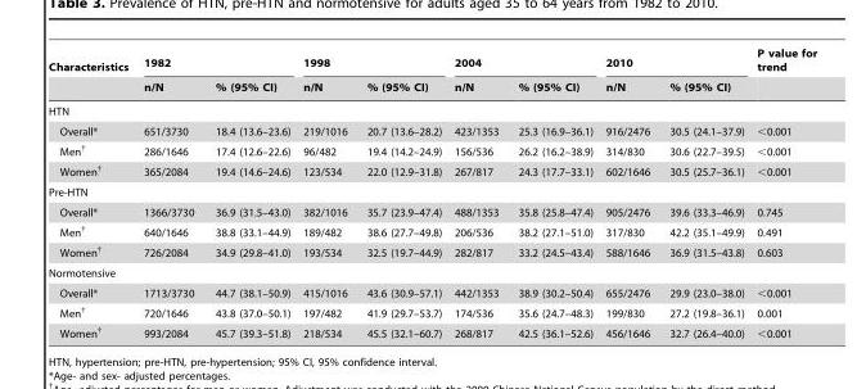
<table><thead><tr><td rowspan="2">Characteristics</td><td colspan="2">1982</td><td colspan="2">1998</td><td colspan="2">2004</td><td colspan="2">2010</td><td rowspan="2">P value for trend</td></tr><tr><td>n/N</td><td>% (95% CI)</td><td>n/N</td><td>% (95% CI)</td><td>n/N</td><td>% (95% CI)</td><td>n/N</td><td>% (95% CI)</td></tr></thead><tbody><tr><td colspan="10">HTN</td></tr><tr><td>Overall*</td><td>651/3730</td><td>18.4 (13.6–23.6)</td><td>219/1016</td><td>20.7 (13.6–28.2)</td><td>423/1353</td><td>25.3 (16.9–36.1)</td><td>916/2476</td><td>30.5 (24.1–37.9)</td><td>&lt;0.001</td></tr><tr><td>Men†</td><td>286/1646</td><td>17.4 (12.6–22.6)</td><td>96/482</td><td>19.4 (14.2–24.9)</td><td>156/536</td><td>26.2 (16.2–38.9)</td><td>314/830</td><td>30.6 (22.7–39.5)</td><td>&lt;0.001</td></tr><tr><td>Women†</td><td>365/2084</td><td>19.4 (14.6–24.6)</td><td>123/534</td><td>22.0 (12.9–31.8)</td><td>267/817</td><td>24.3 (17.7–33.1)</td><td>602/1646</td><td>30.5 (25.7–36.1)</td><td>&lt;0.001</td></tr><tr><td colspan="10">Pre-HTN</td></tr><tr><td>Overall*</td><td>1366/3730</td><td>36.9 (31.5–43.0)</td><td>382/1016</td><td>35.7 (23.9–47.4)</td><td>488/1353</td><td>35.8 (25.8–47.4)</td><td>905/2476</td><td>39.6 (33.3–46.9)</td><td>0.745</td></tr><tr><td>Men†</td><td>640/1646</td><td>38.8 (33.1–44.9)</td><td>189/482</td><td>38.6 (27.7–49.8)</td><td>206/536</td><td>38.2 (27.1–51.0)</td><td>317/830</td><td>42.2 (35.1–49.9)</td><td>0.491</td></tr><tr><td>Women†</td><td>726/2084</td><td>34.9 (29.8–41.0)</td><td>193/534</td><td>32.5 (19.7–44.9)</td><td>282/817</td><td>33.2 (24.5–43.4)</td><td>588/1646</td><td>36.9 (31.5–43.8)</td><td>0.603</td></tr><tr><td colspan="10">Normotensive</td></tr><tr><td>Overall*</td><td>1713/3730</td><td>44.7 (38.1–50.9)</td><td>415/1016</td><td>43.6 (30.9–57.1)</td><td>442/1353</td><td>38.9 (30.2–50.4)</td><td>655/2476</td><td>29.9 (23.0–38.0)</td><td>&lt;0.001</td></tr><tr><td>Men†</td><td>720/1646</td><td>43.8 (37.0–50.1)</td><td>197/482</td><td>41.9 (29.7–53.7)</td><td>174/536</td><td>35.6 (24.7–48.3)</td><td>199/830</td><td>27.2 (19.8–36.1)</td><td>0.001</td></tr><tr><td>Women†</td><td>993/2084</td><td>45.7 (39.3–51.8)</td><td>218/534</td><td>45.5 (32.1–60.7)</td><td>268/817</td><td>42.5 (36.1–52.6)</td><td>456/1646</td><td>32.7 (26.4–40.0)</td><td>&lt;0.001</td></tr></tbody></table>